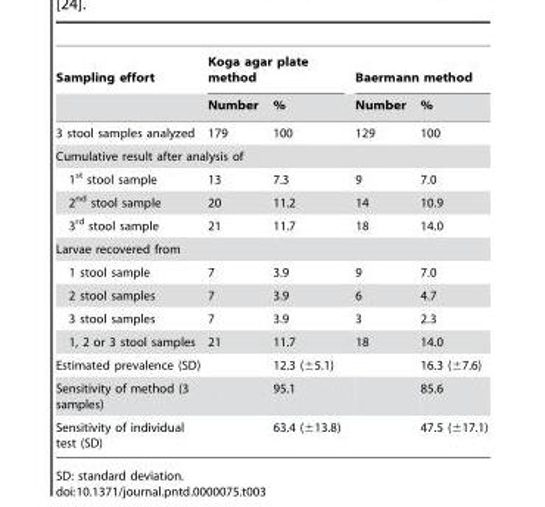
<table><thead><tr><td rowspan="2">Sampling effort</td><td colspan="2">Koga agar plate method</td><td colspan="2">Baermann method</td></tr><tr><td>Number</td><td>%</td><td>Number</td><td>%</td></tr></thead><tbody><tr><td>3 stool samples analyzed</td><td>179</td><td>100</td><td>129</td><td>100</td></tr><tr><td colspan="5">Cumulative result after analysis of</td></tr><tr><td>1<sup>st</sup> stool sample</td><td>13</td><td>7.3</td><td>9</td><td>7.0</td></tr><tr><td>2<sup>nd</sup> stool sample</td><td>20</td><td>11.2</td><td>14</td><td>10.9</td></tr><tr><td>3<sup>rd</sup> stool sample</td><td>21</td><td>11.7</td><td>18</td><td>14.0</td></tr><tr><td colspan="5">Larvae recovered from</td></tr><tr><td>1 stool sample</td><td>7</td><td>3.9</td><td>9</td><td>7.0</td></tr><tr><td>2 stool samples</td><td>7</td><td>3.9</td><td>6</td><td>4.7</td></tr><tr><td>3 stool samples</td><td>7</td><td>3.9</td><td>3</td><td>2.3</td></tr><tr><td>1, 2 or 3 stool samples</td><td>21</td><td>11.7</td><td>18</td><td>14.0</td></tr><tr><td>Estimated prevalence (SD)</td><td></td><td>12.3 (±5.1)</td><td></td><td>16.3 (±7.6)</td></tr><tr><td>Sensitivity of method (3 samples)</td><td></td><td>95.1</td><td></td><td>85.6</td></tr><tr><td>Sensitivity of individual test (SD)</td><td></td><td>63.4 (±13.8)</td><td></td><td>47.5 (±17.1)</td></tr></tbody></table>